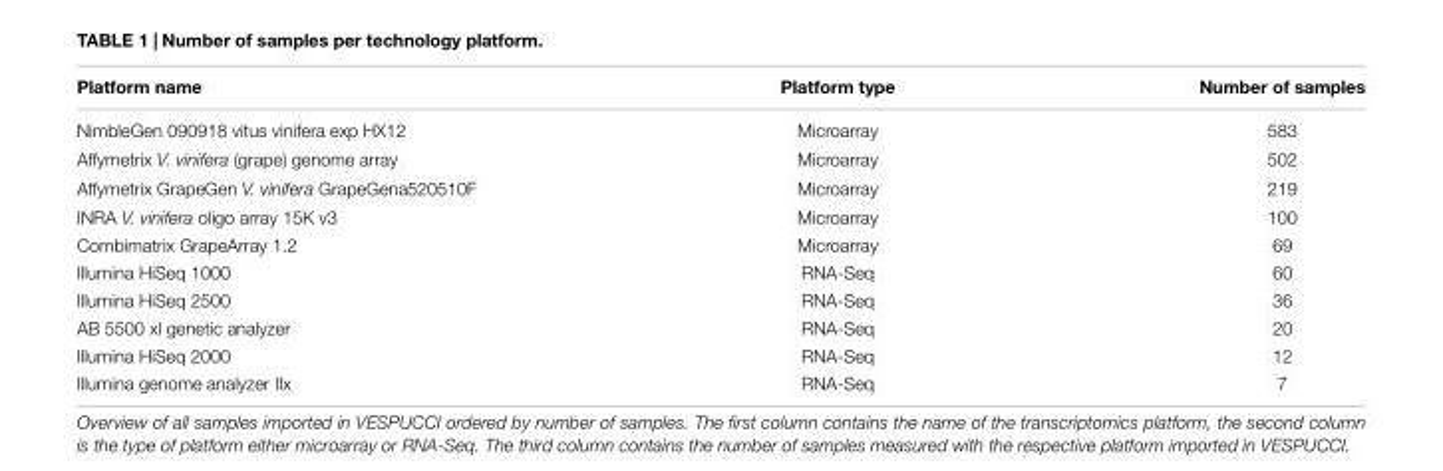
<table><thead><tr><td>Platform name</td><td>Platform type</td><td>Number of samples</td></tr></thead><tbody><tr><td>NimbleGen 090918 vitus vinifera exp HX12</td><td>Microarray</td><td>583</td></tr><tr><td>Affymetrix V. vinifera (grape) genome array</td><td>Microarray</td><td>502</td></tr><tr><td>Affymetrix GrapeGen V. vinifera GrapeGena520510F</td><td>Microarray</td><td>219</td></tr><tr><td>INRA V. vinifera oligo array 15K v3</td><td>Microarray</td><td>100</td></tr><tr><td>Combimatrix GrapeArray 1.2</td><td>Microarray</td><td>69</td></tr><tr><td>Illumina HiSeq 1000</td><td>RNA-Seq</td><td>60</td></tr><tr><td>Illumina HiSeq 2500</td><td>RNA-Seq</td><td>36</td></tr><tr><td>AB 5500 xl genetic analyzer</td><td>RNA-Seq</td><td>20</td></tr><tr><td>Illumina HiSeq 2000</td><td>RNA-Seq</td><td>12</td></tr><tr><td>Illumina genome analyzer IIx</td><td>RNA-Seq</td><td>7</td></tr></tbody></table>